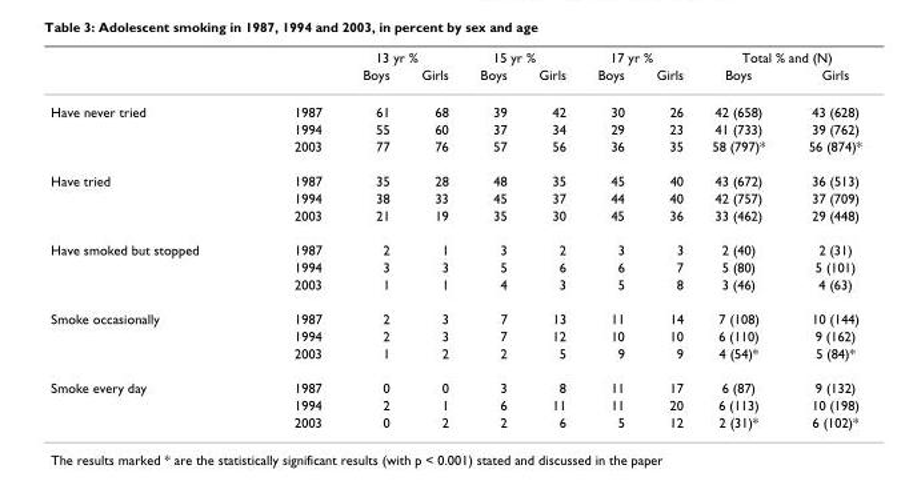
<table><thead><tr><td rowspan="2"></td><td rowspan="2"></td><td colspan="2">13 yr %</td><td colspan="2">15 yr %</td><td colspan="2">17 yr %</td><td colspan="2">Total % and (N)</td></tr><tr><td>Boys</td><td>Girls</td><td>Boys</td><td>Girls</td><td>Boys</td><td>Girls</td><td>Boys</td><td>Girls</td></tr></thead><tbody><tr><td rowspan="3">Have never tried</td><td>1987</td><td>61</td><td>68</td><td>39</td><td>42</td><td>30</td><td>26</td><td>42 (658)</td><td>43 (628)</td></tr><tr><td>1994</td><td>55</td><td>60</td><td>37</td><td>34</td><td>29</td><td>23</td><td>41 (733)</td><td>39 (762)</td></tr><tr><td>2003</td><td>77</td><td>76</td><td>57</td><td>56</td><td>36</td><td>35</td><td>58 (797)*</td><td>56 (874)*</td></tr><tr><td rowspan="3">Have tried</td><td>1987</td><td>35</td><td>28</td><td>48</td><td>35</td><td>45</td><td>40</td><td>43 (672)</td><td>36 (513)</td></tr><tr><td>1994</td><td>38</td><td>33</td><td>45</td><td>37</td><td>44</td><td>40</td><td>42 (757)</td><td>37 (709)</td></tr><tr><td>2003</td><td>21</td><td>19</td><td>35</td><td>30</td><td>45</td><td>36</td><td>33 (462)</td><td>29 (448)</td></tr><tr><td rowspan="3">Have smoked but stopped</td><td>1987</td><td>2</td><td>1</td><td>3</td><td>2</td><td>3</td><td>3</td><td>2 (40)</td><td>2 (31)</td></tr><tr><td>1994</td><td>3</td><td>3</td><td>5</td><td>6</td><td>6</td><td>7</td><td>5 (80)</td><td>5 (101)</td></tr><tr><td>2003</td><td>1</td><td>1</td><td>4</td><td>3</td><td>5</td><td>8</td><td>3 (46)</td><td>4 (63)</td></tr><tr><td rowspan="3">Smoke occasionally</td><td>1987</td><td>2</td><td>3</td><td>7</td><td>13</td><td>11</td><td>14</td><td>7 (108)</td><td>10 (144)</td></tr><tr><td>1994</td><td>2</td><td>3</td><td>7</td><td>12</td><td>10</td><td>10</td><td>6 (110)</td><td>9 (162)</td></tr><tr><td>2003</td><td>1</td><td>2</td><td>2</td><td>5</td><td>9</td><td>9</td><td>4 (54)*</td><td>5 (84)*</td></tr><tr><td rowspan="3">Smoke every day</td><td>1987</td><td>0</td><td>0</td><td>3</td><td>8</td><td>11</td><td>17</td><td>6 (87)</td><td>9 (132)</td></tr><tr><td>1994</td><td>2</td><td>1</td><td>6</td><td>11</td><td>11</td><td>20</td><td>6 (113)</td><td>10 (198)</td></tr><tr><td>2003</td><td>0</td><td>2</td><td>2</td><td>6</td><td>5</td><td>12</td><td>2 (31)*</td><td>6 (102)*</td></tr></tbody></table>